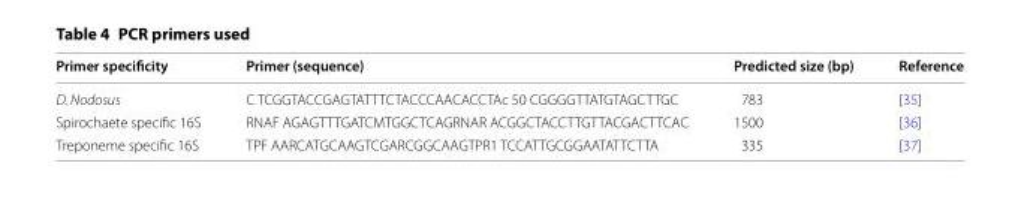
<table><thead><tr><td>Primer specificity</td><td>Primer (sequence)</td><td>Predicted size (bp)</td><td>Reference</td></tr></thead><tbody><tr><td>D. Nodosus</td><td>C TCGGTACCGAGTATTTCTACCCAACACCTAc 50 CGGGGTTATGTAGCTTGC</td><td>783</td><td>[35]</td></tr><tr><td>Spirochaete specific 16S</td><td>RNAF AGAGTTTGATCMTGGCTCAGRNAR ACGGCTACCTTGTTACGACTTCAC</td><td>1500</td><td>[36]</td></tr><tr><td>Treponeme specific 16S</td><td>TPF AARCATGCAAGTCGARCGGCAAGTPR1 TCCATTGCGGAATATTCTTA</td><td>335</td><td>[37]</td></tr></tbody></table>